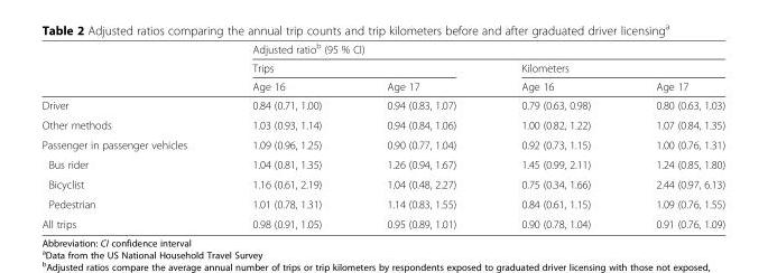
<table><thead><tr><td rowspan="3"></td><td colspan="4">Adjusted ratio<sup>b</sup> (95 % CI)</td></tr><tr><td colspan="2">Trips</td><td colspan="2">Kilometers</td></tr><tr><td>Age 16</td><td>Age 17</td><td>Age 16</td><td>Age 17</td></tr></thead><tbody><tr><td>Driver</td><td>0.84 (0.71, 1.00)</td><td>0.94 (0.83, 1.07)</td><td>0.79 (0.63, 0.98)</td><td>0.80 (0.63, 1.03)</td></tr><tr><td>Other methods</td><td>1.03 (0.93, 1.14)</td><td>0.94 (0.84, 1.06)</td><td>1.00 (0.82, 1.22)</td><td>1.07 (0.84, 1.35)</td></tr><tr><td>Passenger in passenger vehicles</td><td>1.09 (0.96, 1.25)</td><td>0.90 (0.77, 1.04)</td><td>0.92 (0.73, 1.15)</td><td>1.00 (0.76, 1.31)</td></tr><tr><td>Bus rider</td><td>1.04 (0.81, 1.35)</td><td>1.26 (0.94, 1.67)</td><td>1.45 (0.99, 2.11)</td><td>1.24 (0.85, 1.80)</td></tr><tr><td>Bicyclist</td><td>1.16 (0.61, 2.19)</td><td>1.04 (0.48, 2.27)</td><td>0.75 (0.34, 1.66)</td><td>2.44 (0.97, 6.13)</td></tr><tr><td>Pedestrian</td><td>1.01 (0.78, 1.31)</td><td>1.14 (0.83, 1.55)</td><td>0.84 (0.61, 1.15)</td><td>1.09 (0.76, 1.55)</td></tr><tr><td>All trips</td><td>0.98 (0.91, 1.05)</td><td>0.95 (0.89, 1.01)</td><td>0.90 (0.78, 1.04)</td><td>0.91 (0.76, 1.09)</td></tr></tbody></table>